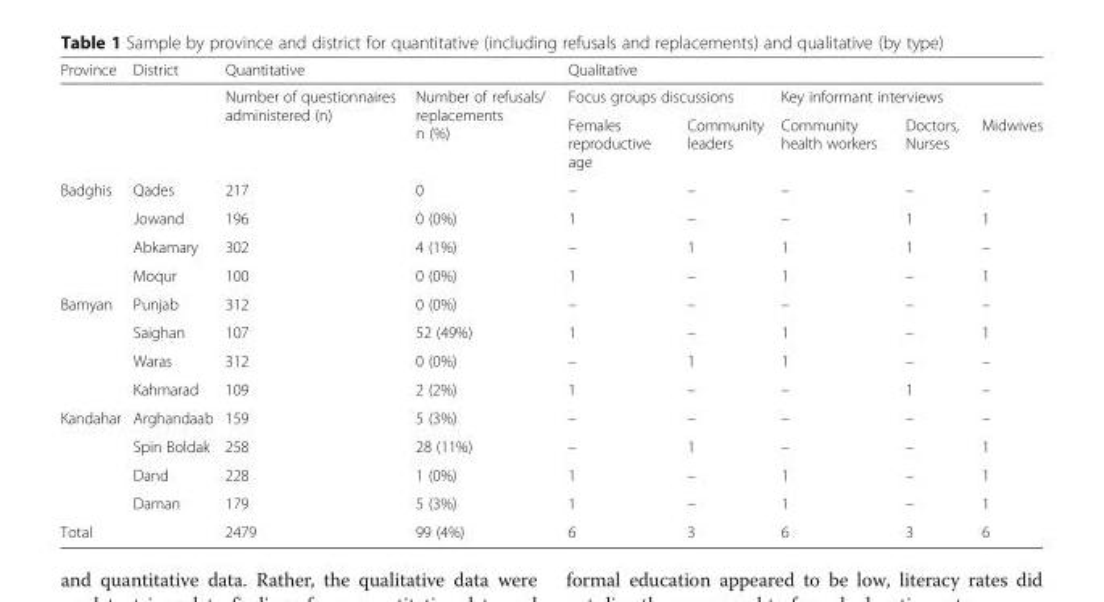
<table><thead><tr><td rowspan="3">Province</td><td rowspan="3">District</td><td colspan="2">Quantitative</td><td colspan="5">Qualitative</td></tr><tr><td rowspan="2">Number of questionnaires administered (n)</td><td rowspan="2">Number of refusals/ replacements n (%)</td><td colspan="2">Focus groups discussions</td><td colspan="3">Key informant interviews</td></tr><tr><td>Females reproductive age</td><td>Community leaders</td><td>Community health workers</td><td>Doctors, Nurses</td><td>Midwives</td></tr></thead><tbody><tr><td rowspan="4">Badghis</td><td>Qades</td><td>217</td><td>0</td><td>–</td><td>–</td><td>–</td><td>–</td><td>–</td></tr><tr><td>Jowand</td><td>196</td><td>0 (0%)</td><td>1</td><td>–</td><td>–</td><td>1</td><td>1</td></tr><tr><td>Abkamary</td><td>302</td><td>4 (1%)</td><td>–</td><td>1</td><td>1</td><td>1</td><td>–</td></tr><tr><td>Moqur</td><td>100</td><td>0 (0%)</td><td>1</td><td>–</td><td>1</td><td>–</td><td>1</td></tr><tr><td rowspan="4">Bamyan</td><td>Punjab</td><td>312</td><td>0 (0%)</td><td>–</td><td>–</td><td>–</td><td>–</td><td>–</td></tr><tr><td>Saighan</td><td>107</td><td>52 (49%)</td><td>1</td><td>–</td><td>1</td><td>–</td><td>1</td></tr><tr><td>Waras</td><td>312</td><td>0 (0%)</td><td>–</td><td>1</td><td>1</td><td>–</td><td>–</td></tr><tr><td>Kahmarad</td><td>109</td><td>2 (2%)</td><td>1</td><td>–</td><td>–</td><td>1</td><td>–</td></tr><tr><td rowspan="4">Kandahar</td><td>Arghandaab</td><td>159</td><td>5 (3%)</td><td>–</td><td>–</td><td>–</td><td>–</td><td>–</td></tr><tr><td>Spin Boldak</td><td>258</td><td>28 (11%)</td><td>–</td><td>1</td><td>–</td><td>–</td><td>1</td></tr><tr><td>Dand</td><td>228</td><td>1 (0%)</td><td>1</td><td>–</td><td>1</td><td>–</td><td>1</td></tr><tr><td>Daman</td><td>179</td><td>5 (3%)</td><td>1</td><td>–</td><td>1</td><td>–</td><td>1</td></tr><tr><td>Total</td><td></td><td>2479</td><td>99 (4%)</td><td>6</td><td>3</td><td>6</td><td>3</td><td>6</td></tr></tbody></table>